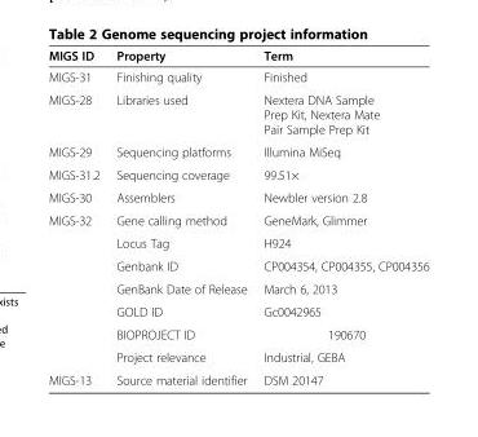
<table><thead><tr><td>MIGS ID</td><td>Property</td><td>Term</td></tr></thead><tbody><tr><td>MIGS-31</td><td>Finishing quality</td><td>Finished</td></tr><tr><td>MIGS-28</td><td>Libraries used</td><td>Nextera DNA Sample Prep Kit, Nextera Mate Pair Sample Prep Kit</td></tr><tr><td>MIGS-29</td><td>Sequencing platforms</td><td>Illumina MiSeq</td></tr><tr><td>MIGS-31.2</td><td>Sequencing coverage</td><td>99.51×</td></tr><tr><td>MIGS-30</td><td>Assemblers</td><td>Newbler version 2.8</td></tr><tr><td rowspan="7">MIGS-32</td><td>Gene calling method</td><td>GeneMark, Glimmer</td></tr><tr><td>Locus Tag</td><td>H924</td></tr><tr><td>Genbank ID</td><td>CP004354, CP004355, CP004356</td></tr><tr><td>GenBank Date of Release</td><td>March 6, 2013</td></tr><tr><td>GOLD ID</td><td>Gc0042965</td></tr><tr><td>BIOPROJECT ID</td><td>190670</td></tr><tr><td>Project relevance</td><td>Industrial, GEBA</td></tr><tr><td>MIGS-13</td><td>Source material identifier</td><td>DSM 20147</td></tr></tbody></table>